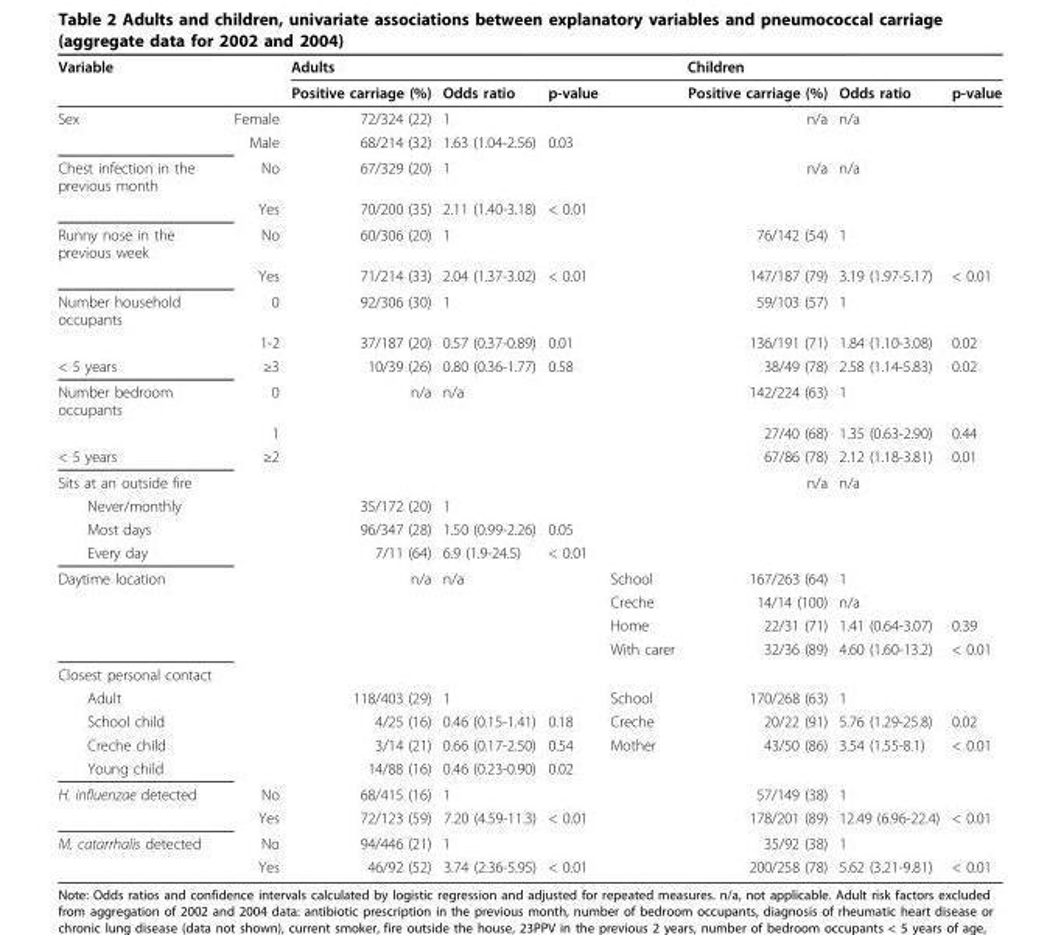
<table><thead><tr><td rowspan="2">Variable</td><td rowspan="2"></td><td colspan="3">Adults</td><td rowspan="2"></td><td colspan="3">Children</td></tr><tr><td>Positive carriage (%)</td><td>Odds ratio</td><td>p-value</td><td>Positive carriage (%)</td><td>Odds ratio</td><td>p-value</td></tr></thead><tbody><tr><td rowspan="2">Sex</td><td>Female</td><td>72/324 (22)</td><td>1</td><td></td><td></td><td>n/a</td><td>n/a</td><td></td></tr><tr><td>Male</td><td>68/214 (32)</td><td>1.63 (1.04-2.56)</td><td>0.03</td><td></td><td></td><td></td><td></td></tr><tr><td rowspan="2">Chest infection in the previous month</td><td>No</td><td>67/329 (20)</td><td>1</td><td></td><td></td><td>n/a</td><td>n/a</td><td></td></tr><tr><td>Yes</td><td>70/200 (35)</td><td>2.11 (1.40-3.18)</td><td>&lt; 0.01</td><td></td><td></td><td></td><td></td></tr><tr><td rowspan="2">Runny nose in the previous week</td><td>No</td><td>60/306 (20)</td><td>1</td><td></td><td></td><td>76/142 (54)</td><td>1</td><td></td></tr><tr><td>Yes</td><td>71/214 (33)</td><td>2.04 (1.37-3.02)</td><td>&lt; 0.01</td><td></td><td>147/187 (79)</td><td>3.19 (1.97-5.17)</td><td>&lt; 0.01</td></tr><tr><td rowspan="2">Number household occupants</td><td>0</td><td>92/306 (30)</td><td>1</td><td></td><td></td><td>59/103 (57)</td><td>1</td><td></td></tr><tr><td>1-2</td><td>37/187 (20)</td><td>0.57 (0.37-0.89)</td><td>0.01</td><td></td><td>136/191 (71)</td><td>1.84 (1.10-3.08)</td><td>0.02</td></tr><tr><td>&lt; 5 years</td><td>≥3</td><td>10/39 (26)</td><td>0.80 (0.36-1.77)</td><td>0.58</td><td></td><td>38/49 (78)</td><td>2.58 (1.14-5.83)</td><td>0.02</td></tr><tr><td rowspan="2">Number bedroom occupants</td><td>0</td><td>n/a</td><td>n/a</td><td></td><td></td><td>142/224 (63)</td><td>1</td><td></td></tr><tr><td>1</td><td></td><td></td><td></td><td></td><td>27/40 (68)</td><td>1.35 (0.63-2.90)</td><td>0.44</td></tr><tr><td>&lt; 5 years</td><td>≥2</td><td></td><td></td><td></td><td></td><td>67/86 (78)</td><td>2.12 (1.18-3.81)</td><td>0.01</td></tr><tr><td>Sits at an outside fire</td><td></td><td></td><td></td><td></td><td></td><td>n/a</td><td>n/a</td><td></td></tr><tr><td>Never/monthly</td><td></td><td>35/172 (20)</td><td>1</td><td></td><td></td><td></td><td></td><td></td></tr><tr><td>Most days</td><td></td><td>96/347 (28)</td><td>1.50 (0.99-2.26)</td><td>0.05</td><td></td><td></td><td></td><td></td></tr><tr><td>Every day</td><td></td><td>7/11 (64)</td><td>6.9 (1.9-24.5)</td><td>&lt; 0.01</td><td></td><td></td><td></td><td></td></tr><tr><td rowspan="4">Daytime location</td><td></td><td>n/a</td><td>n/a</td><td></td><td>School</td><td>167/263 (64)</td><td>1</td><td></td></tr><tr><td></td><td></td><td></td><td></td><td>Creche</td><td>14/14 (100)</td><td>n/a</td><td></td></tr><tr><td></td><td></td><td></td><td></td><td>Home</td><td>22/31 (71)</td><td>1.41 (0.64-3.07)</td><td>0.39</td></tr><tr><td></td><td></td><td></td><td></td><td>With carer</td><td>32/36 (89)</td><td>4.60 (1.60-13.2)</td><td>&lt; 0.01</td></tr><tr><td colspan="9">Closest personal contact</td></tr><tr><td>Adult</td><td></td><td>118/403 (29)</td><td>1</td><td></td><td>School</td><td>170/268 (63)</td><td>1</td><td></td></tr><tr><td>School child</td><td></td><td>4/25 (16)</td><td>0.46 (0.15-1.41)</td><td>0.18</td><td>Creche</td><td>20/22 (91)</td><td>5.76 (1.29-25.8)</td><td>0.02</td></tr><tr><td>Creche child</td><td></td><td>3/14 (21)</td><td>0.66 (0.17-2.50)</td><td>0.54</td><td>Mother</td><td>43/50 (86)</td><td>3.54 (1.55-8.1)</td><td>&lt; 0.01</td></tr><tr><td>Young child</td><td></td><td>14/88 (16)</td><td>0.46 (0.23-0.90)</td><td>0.02</td><td></td><td></td><td></td><td></td></tr><tr><td rowspan="2">H. influenzae detected</td><td>No</td><td>68/415 (16)</td><td>1</td><td></td><td></td><td>57/149 (38)</td><td>1</td><td></td></tr><tr><td>Yes</td><td>72/123 (59)</td><td>7.20 (4.59-11.3)</td><td>&lt; 0.01</td><td></td><td>178/201 (89)</td><td>12.49 (6.96-22.4)</td><td>&lt; 0.01</td></tr><tr><td rowspan="2">M. catarrhalis detected</td><td>No</td><td>94/446 (21)</td><td>1</td><td></td><td></td><td>35/92 (38)</td><td>1</td><td></td></tr><tr><td>Yes</td><td>46/92 (52)</td><td>3.74 (2.36-5.95)</td><td>&lt; 0.01</td><td></td><td>200/258 (78)</td><td>5.62 (3.21-9.81)</td><td>&lt; 0.01</td></tr></tbody></table>